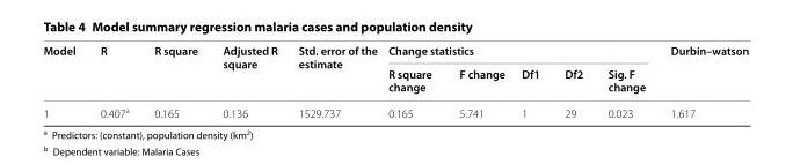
<table><thead><tr><td rowspan="2">Model</td><td rowspan="2">R</td><td rowspan="2">R square</td><td rowspan="2">Adjusted R square</td><td rowspan="2">Std. error of the estimate</td><td colspan="5">Change statistics</td><td rowspan="2">Durbin–watson</td></tr><tr><td>R square change</td><td>F change</td><td>Df1</td><td>Df2</td><td>Sig. F change</td></tr></thead><tbody><tr><td>1</td><td>0.407<sup>a</sup></td><td>0.165</td><td>0.136</td><td>1529.737</td><td>0.165</td><td>5.741</td><td>1</td><td>29</td><td>0.023</td><td>1.617</td></tr></tbody></table>